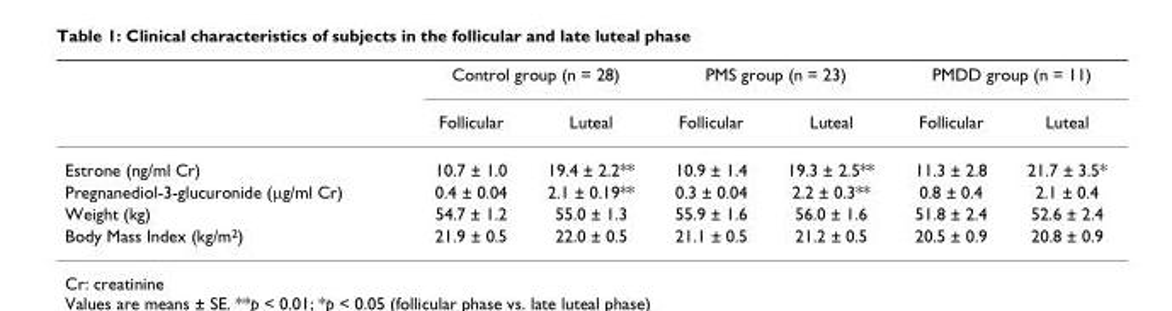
<table><thead><tr><td rowspan="2"></td><td colspan="2">Control group (n = 28)</td><td colspan="2">PMS group (n = 23)</td><td colspan="2">PMDD group (n = 11)</td></tr><tr><td>Follicular</td><td>Luteal</td><td>Follicular</td><td>Luteal</td><td>Follicular</td><td>Luteal</td></tr></thead><tbody><tr><td>Estrone (ng/ml Cr)</td><td>10.7 ± 1.0</td><td>19.4 ± 2.2**</td><td>10.9 ± 1.4</td><td>19.3 ± 2.5**</td><td>11.3 ± 2.8</td><td>21.7 ± 3.5*</td></tr><tr><td>Pregnanediol-3-glucuronide (μg/ml Cr)</td><td>0.4 ± 0.04</td><td>2.1 ± 0.19**</td><td>0.3 ± 0.04</td><td>2.2 ± 0.3**</td><td>0.8 ± 0.4</td><td>2.1 ± 0.4</td></tr><tr><td>Weight (kg)</td><td>54.7 ± 1.2</td><td>55.0 ± 1.3</td><td>55.9 ± 1.6</td><td>56.0 ± 1.6</td><td>51.8 ± 2.4</td><td>52.6 ± 2.4</td></tr><tr><td>Body Mass Index (kg/m<sup>2</sup>)</td><td>21.9 ± 0.5</td><td>22.0 ± 0.5</td><td>21.1 ± 0.5</td><td>21.2 ± 0.5</td><td>20.5 ± 0.9</td><td>20.8 ± 0.9</td></tr></tbody></table>